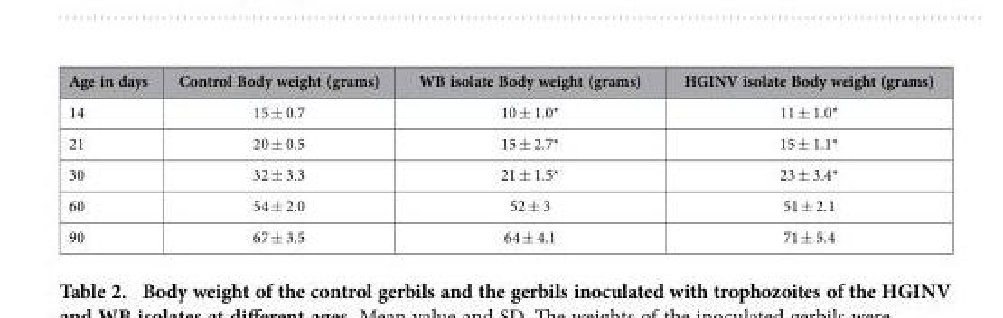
<table><thead><tr><td>Age in days</td><td>Control Body weight (grams)</td><td>WB isolate Body weight (grams)</td><td>HGINV isolate Body weight (grams)</td></tr></thead><tbody><tr><td>14</td><td>15 ± 0.7</td><td>10 ± 1.0*</td><td>11 ± 1.0*</td></tr><tr><td>21</td><td>20 ± 0.5</td><td>15 ± 2.7*</td><td>15 ± 1.1*</td></tr><tr><td>30</td><td>32 ± 3.3</td><td>21 ± 1.5*</td><td>23 ± 3.4*</td></tr><tr><td>60</td><td>54 ± 2.0</td><td>52 ± 3</td><td>51 ± 2.1</td></tr><tr><td>90</td><td>67 ± 3.5</td><td>64 ± 4.1</td><td>71 ± 5.4</td></tr></tbody></table>